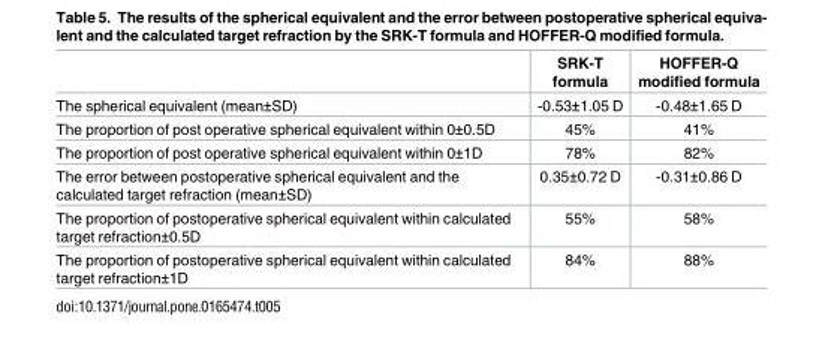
<table><thead><tr><td></td><td>SRK-T formula</td><td>HOFFER-Q modified formula</td></tr></thead><tbody><tr><td>The spherical equivalent (mean±SD)</td><td>-0.53±1.05 D</td><td>-0.48±1.65 D</td></tr><tr><td>The proportion of post operative spherical equivalent within 0±0.5D</td><td>45%</td><td>41%</td></tr><tr><td>The proportion of post operative spherical equivalent within 0±1D</td><td>78%</td><td>82%</td></tr><tr><td>The error between postoperative spherical equivalent and the calculated target refraction (mean±SD)</td><td>0.35±0.72 D</td><td>-0.31±0.86 D</td></tr><tr><td>The proportion of postoperative spherical equivalent within calculated target refraction±0.5D</td><td>55%</td><td>58%</td></tr><tr><td>The proportion of postoperative spherical equivalent within calculated target refraction±1D</td><td>84%</td><td>88%</td></tr></tbody></table>